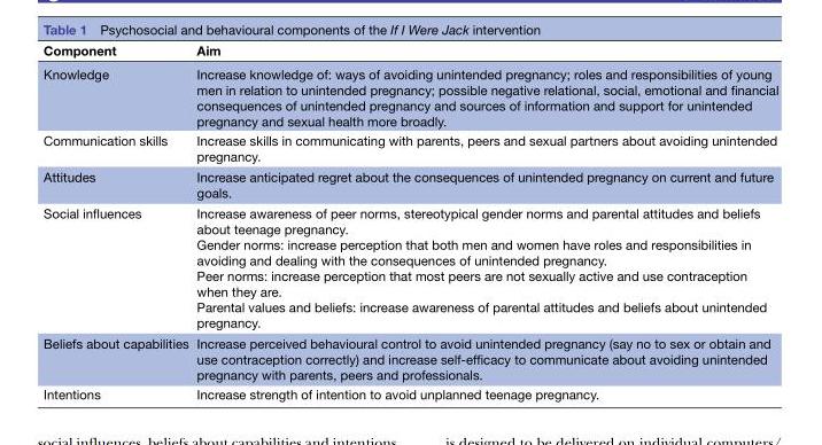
<table><thead><tr><td>Component</td><td>Aim</td></tr></thead><tbody><tr><td>Knowledge</td><td>Increase knowledge of: ways of avoiding unintended pregnancy; roles and responsibilities of young men in relation to unintended pregnancy; possible negative relational, social, emotional and financial consequences of unintended pregnancy and sources of information and support for unintended pregnancy and sexual health more broadly.</td></tr><tr><td>Communication skills</td><td>Increase skills in communicating with parents, peers and sexual partners about avoiding unintended pregnancy.</td></tr><tr><td>Attitudes</td><td>Increase anticipated regret about the consequences of unintended pregnancy on current and future goals.</td></tr><tr><td>Social influences</td><td>Increase awareness of peer norms, stereotypical gender norms and parental attitudes and beliefs about teenage pregnancy. Gender norms: increase perception that both men and women have roles and responsibilities in avoiding and dealing with the consequences of unintended pregnancy. Peer norms: increase perception that most peers are not sexually active and use contraception when they are. Parental values and beliefs: increase awareness of parental attitudes and beliefs about unintended pregnancy.</td></tr><tr><td>Beliefs about capabilities</td><td>Increase perceived behavioural control to avoid unintended pregnancy (say no to sex or obtain and use contraception correctly) and increase self-efficacy to communicate about avoiding unintended pregnancy with parents, peers and professionals.</td></tr><tr><td>Intentions</td><td>Increase strength of intention to avoid unplanned teenage pregnancy.</td></tr></tbody></table>